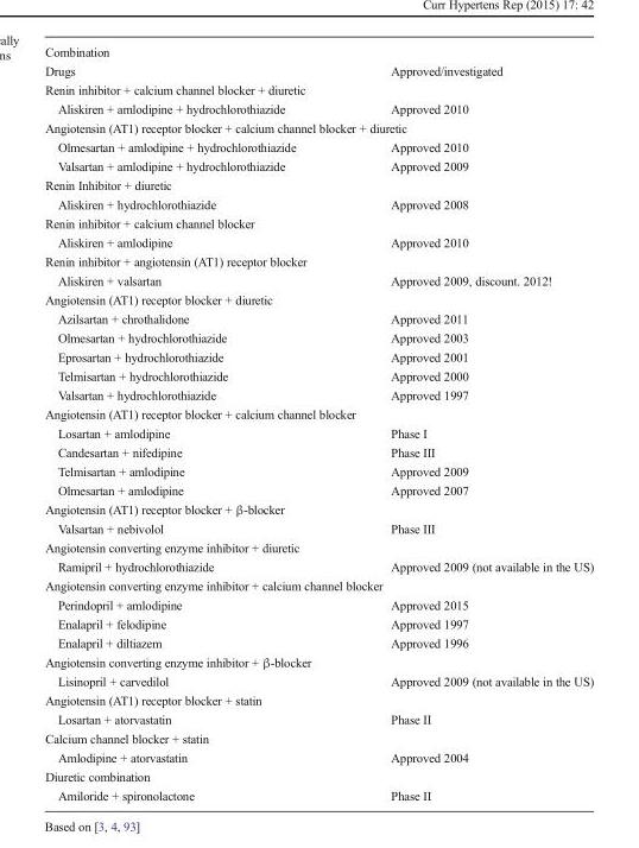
<table><tbody><tr><td colspan="2">Combination</td></tr><tr><td>Drugs</td><td>Approved/investigated</td></tr><tr><td colspan="2">Renin inhibitor + calcium channel blocker + diuretic</td></tr><tr><td>Aliskiren + amlodipine + hydrochlorothiazide</td><td>Approved 2010</td></tr><tr><td colspan="2">Angiotensin (AT1) receptor blocker + calcium channel blocker + diuretic</td></tr><tr><td>Olmesartan + amlodipine + hydrochlorothiazide</td><td>Approved 2010</td></tr><tr><td>Valsartan + amlodipine + hydrochlorothiazide</td><td>Approved 2009</td></tr><tr><td colspan="2">Renin Inhibitor + diuretic</td></tr><tr><td>Aliskiren + hydrochlorothiazide</td><td>Approved 2008</td></tr><tr><td colspan="2">Renin inhibitor + calcium channel blocker</td></tr><tr><td>Aliskiren + amlodipine</td><td>Approved 2010</td></tr><tr><td colspan="2">Renin inhibitor + angiotensin (AT1) receptor blocker</td></tr><tr><td>Aliskiren + valsartan</td><td>Approved 2009, discount. 2012!</td></tr><tr><td colspan="2">Angiotensin (AT1) receptor blocker + diuretic</td></tr><tr><td>Azilsartan + chrothalidone</td><td>Approved 2011</td></tr><tr><td>Olmesartan + hydrochlorothiazide</td><td>Approved 2003</td></tr><tr><td>Eprosartan + hydrochlorothiazide</td><td>Approved 2001</td></tr><tr><td>Telmisartan + hydrochlorothiazide</td><td>Approved 2000</td></tr><tr><td>Valsartan + hydrochlorothiazide</td><td>Approved 1997</td></tr><tr><td colspan="2">Angiotensin (AT1) receptor blocker + calcium channel blocker</td></tr><tr><td>Losartan + amlodipine</td><td>Phase I</td></tr><tr><td>Candesartan + nifedipine</td><td>Phase III</td></tr><tr><td>Telmisartan + amlodipine</td><td>Approved 2009</td></tr><tr><td>Olmesartan + amlodipine</td><td>Approved 2007</td></tr><tr><td colspan="2">Angiotensin (AT1) receptor blocker + β-blocker</td></tr><tr><td>Valsartan + nebivolol</td><td>Phase III</td></tr><tr><td colspan="2">Angiotensin converting enzyme inhibitor + diuretic</td></tr><tr><td>Ramipril + hydrochlorothiazide</td><td>Approved 2009 (not available in the US)</td></tr><tr><td colspan="2">Angiotensin converting enzyme inhibitor + calcium channel blocker</td></tr><tr><td>Perindopril + amlodipine</td><td>Approved 2015</td></tr><tr><td>Enalapril + felodipine</td><td>Approved 1997</td></tr><tr><td>Enalapril + diltiazem</td><td>Approved 1996</td></tr><tr><td colspan="2">Angiotensin converting enzyme inhibitor + β-blocker</td></tr><tr><td>Lisinopril + carvedilol</td><td>Approved 2009 (not available in the US)</td></tr><tr><td colspan="2">Angiotensin (AT1) receptor blocker + statin</td></tr><tr><td>Losartan + atorvastatin</td><td>Phase II</td></tr><tr><td colspan="2">Calcium channel blocker + statin</td></tr><tr><td>Amlodipine + atorvastatin</td><td>Approved 2004</td></tr><tr><td colspan="2">Diuretic combination</td></tr><tr><td>Amiloride + spironolactone</td><td>Phase II</td></tr></tbody></table>